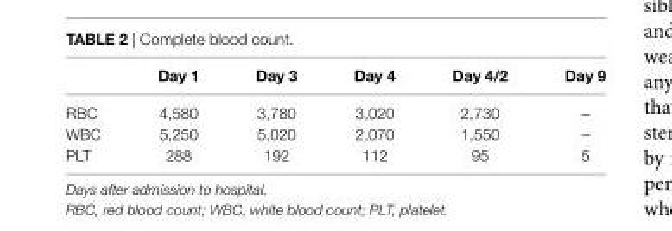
<table><thead><tr><td></td><td>Day 1</td><td>Day 3</td><td>Day 4</td><td>Day 4/2</td><td>Day 9</td></tr></thead><tbody><tr><td>RBC</td><td>4,580</td><td>3,780</td><td>3,020</td><td>2,730</td><td>–</td></tr><tr><td>WBC</td><td>5,250</td><td>5,020</td><td>2,070</td><td>1,550</td><td>–</td></tr><tr><td>PLT</td><td>288</td><td>192</td><td>112</td><td>95</td><td>5</td></tr></tbody></table>